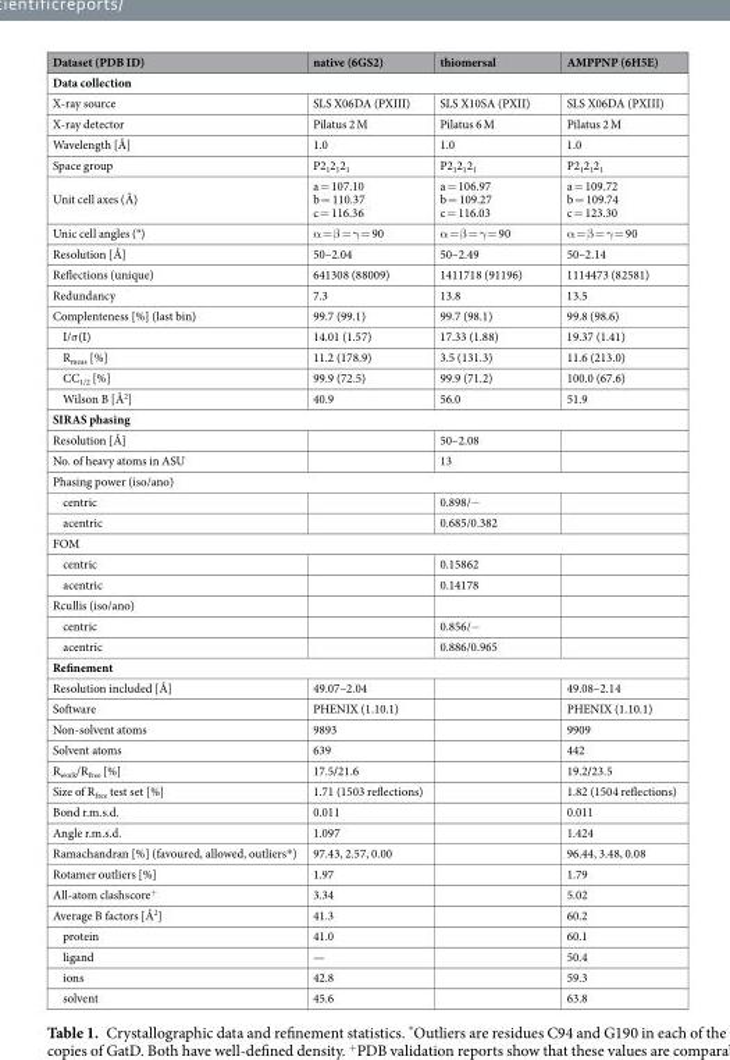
<table><thead><tr><td>Dataset (PDB ID)</td><td>native (6GS2)</td><td>thiomersal</td><td>AMPPNP (6H5E)</td></tr></thead><tbody><tr><td colspan="4">Data collection</td></tr><tr><td>X-ray source</td><td>SLS X06DA (PXIII)</td><td>SLS X10SA (PXII)</td><td>SLS X06DA (PXIII)</td></tr><tr><td>X-ray detector</td><td>Pilatus 2 M</td><td>Pilatus 6 M</td><td>Pilatus 2 M</td></tr><tr><td>Wavelength [Å]</td><td>1.0</td><td>1.0</td><td>1.0</td></tr><tr><td>Space group</td><td>P2<sub>1</sub>2<sub>1</sub>2<sub>1</sub></td><td>P2<sub>1</sub>2<sub>1</sub>2<sub>1</sub></td><td>P2<sub>1</sub>2<sub>1</sub>2<sub>1</sub></td></tr><tr><td>Unit cell axes (Å)</td><td>a = 107.10 b = 110.37 c = 116.36</td><td>a = 106.97 b = 109.27 c = 116.03</td><td>a = 109.72 b = 109.74 c = 123.30</td></tr><tr><td>Unic cell angles (°)</td><td>α = β = γ = 90</td><td>α = β = γ = 90</td><td>α = β = γ = 90</td></tr><tr><td>Resolution [Å]</td><td>50–2.04</td><td>50–2.49</td><td>50–2.14</td></tr><tr><td>Reflections (unique)</td><td>641308 (88009)</td><td>1411718 (91196)</td><td>1114473 (82581)</td></tr><tr><td>Redundancy</td><td>7.3</td><td>13.8</td><td>13.5</td></tr><tr><td>Complenteness [%] (last bin)</td><td>99.7 (99.1)</td><td>99.7 (98.1)</td><td>99.8 (98.6)</td></tr><tr><td>I/σ(I)</td><td>14.01 (1.57)</td><td>17.33 (1.88)</td><td>19.37 (1.41)</td></tr><tr><td>R<sub>meas</sub> [%]</td><td>11.2 (178.9)</td><td>3.5 (131.3)</td><td>11.6 (213.0)</td></tr><tr><td>CC<sub>1/2</sub> [%]</td><td>99.9 (72.5)</td><td>99.9 (71.2)</td><td>100.0 (67.6)</td></tr><tr><td>Wilson B [Å<sup>2</sup>]</td><td>40.9</td><td>56.0</td><td>51.9</td></tr><tr><td colspan="4">SIRAS phasing</td></tr><tr><td>Resolution [Å]</td><td></td><td>50–2.08</td><td></td></tr><tr><td>No. of heavy atoms in ASU</td><td></td><td>13</td><td></td></tr><tr><td colspan="4">Phasing power (iso/ano)</td></tr><tr><td>centric</td><td></td><td>0.898/−</td><td></td></tr><tr><td>acentric</td><td></td><td>0.685/0.382</td><td></td></tr><tr><td colspan="4">FOM</td></tr><tr><td>centric</td><td></td><td>0.15862</td><td></td></tr><tr><td>acentric</td><td></td><td>0.14178</td><td></td></tr><tr><td colspan="4">Rcullis (iso/ano)</td></tr><tr><td>centric</td><td></td><td>0.856/−</td><td></td></tr><tr><td>acentric</td><td></td><td>0.886/0.965</td><td></td></tr><tr><td colspan="4">Refinement</td></tr><tr><td>Resolution included [Å]</td><td>49.07–2.04</td><td></td><td>49.08–2.14</td></tr><tr><td>Software</td><td>PHENIX (1.10.1)</td><td></td><td>PHENIX (1.10.1)</td></tr><tr><td>Non-solvent atoms</td><td>9893</td><td></td><td>9909</td></tr><tr><td>Solvent atoms</td><td>639</td><td></td><td>442</td></tr><tr><td>R<sub>work</sub>/R<sub>free</sub> [%]</td><td>17.5/21.6</td><td></td><td>19.2/23.5</td></tr><tr><td>Size of R<sub>free</sub> test set [%]</td><td>1.71 (1503 reflections)</td><td></td><td>1.82 (1504 reflections)</td></tr><tr><td>Bond r.m.s.d.</td><td>0.011</td><td></td><td>0.011</td></tr><tr><td>Angle r.m.s.d.</td><td>1.097</td><td></td><td>1.424</td></tr><tr><td>Ramachandran [%] (favoured, allowed, outliers*)</td><td>97.43, 2.57, 0.00</td><td></td><td>96.44, 3.48, 0.08</td></tr><tr><td>Rotamer outliers [%]</td><td>1.97</td><td></td><td>1.79</td></tr><tr><td>All-atom clashscore<sup>+</sup></td><td>3.34</td><td></td><td>5.02</td></tr><tr><td>Average B factors [Å<sup>2</sup>]</td><td>41.3</td><td></td><td>60.2</td></tr><tr><td>protein</td><td>41.0</td><td></td><td>60.1</td></tr><tr><td>ligand</td><td>—</td><td></td><td>50.4</td></tr><tr><td>ions</td><td>42.8</td><td></td><td>59.3</td></tr><tr><td>solvent</td><td>45.6</td><td></td><td>63.8</td></tr></tbody></table>